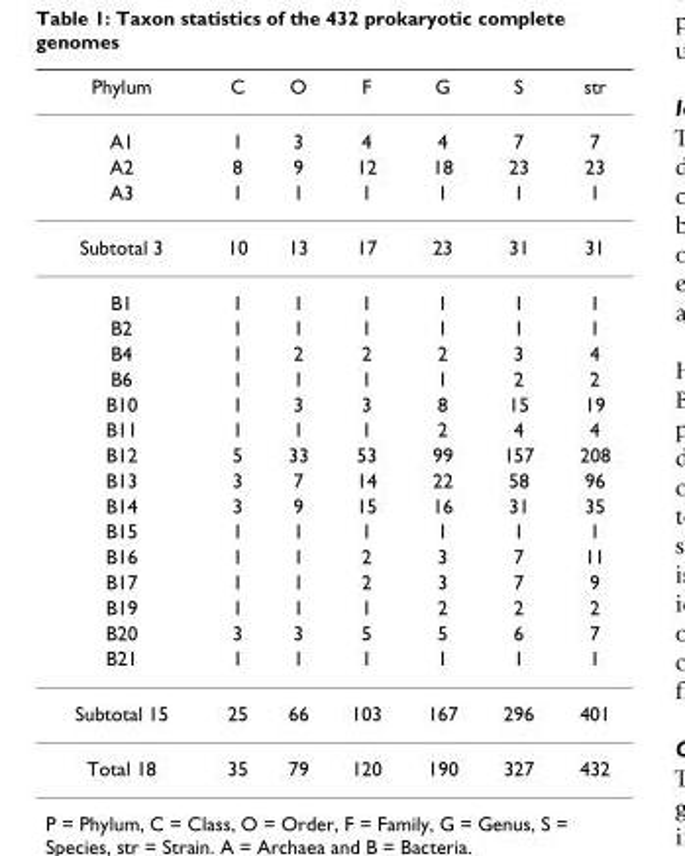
<table><thead><tr><td>Phylum</td><td>C</td><td>O</td><td>F</td><td>G</td><td>S</td><td>str</td></tr></thead><tbody><tr><td>A1</td><td>1</td><td>3</td><td>4</td><td>4</td><td>7</td><td>7</td></tr><tr><td>A2</td><td>8</td><td>9</td><td>12</td><td>18</td><td>23</td><td>23</td></tr><tr><td>A3</td><td>1</td><td>1</td><td>1</td><td>1</td><td>1</td><td>1</td></tr><tr><td>Subtotal 3</td><td>10</td><td>13</td><td>17</td><td>23</td><td>31</td><td>31</td></tr><tr><td>B1</td><td>1</td><td>1</td><td>1</td><td>1</td><td>1</td><td>1</td></tr><tr><td>B2</td><td>1</td><td>1</td><td>1</td><td>1</td><td>1</td><td>1</td></tr><tr><td>B4</td><td>1</td><td>2</td><td>2</td><td>2</td><td>3</td><td>4</td></tr><tr><td>B6</td><td>1</td><td>1</td><td>1</td><td>1</td><td>2</td><td>2</td></tr><tr><td>B10</td><td>1</td><td>3</td><td>3</td><td>8</td><td>15</td><td>19</td></tr><tr><td>B11</td><td>1</td><td>1</td><td>1</td><td>2</td><td>4</td><td>4</td></tr><tr><td>B12</td><td>5</td><td>33</td><td>53</td><td>99</td><td>157</td><td>208</td></tr><tr><td>B13</td><td>3</td><td>7</td><td>14</td><td>22</td><td>58</td><td>96</td></tr><tr><td>B14</td><td>3</td><td>9</td><td>15</td><td>16</td><td>31</td><td>35</td></tr><tr><td>B15</td><td>1</td><td>1</td><td>1</td><td>1</td><td>1</td><td>1</td></tr><tr><td>B16</td><td>1</td><td>1</td><td>2</td><td>3</td><td>7</td><td>11</td></tr><tr><td>B17</td><td>1</td><td>1</td><td>2</td><td>3</td><td>7</td><td>9</td></tr><tr><td>B19</td><td>1</td><td>1</td><td>1</td><td>2</td><td>2</td><td>2</td></tr><tr><td>B20</td><td>3</td><td>3</td><td>5</td><td>5</td><td>6</td><td>7</td></tr><tr><td>B21</td><td>1</td><td>1</td><td>1</td><td>1</td><td>1</td><td>1</td></tr><tr><td>Subtotal 15</td><td>25</td><td>66</td><td>103</td><td>167</td><td>296</td><td>401</td></tr><tr><td>Total 18</td><td>35</td><td>79</td><td>120</td><td>190</td><td>327</td><td>432</td></tr></tbody></table>